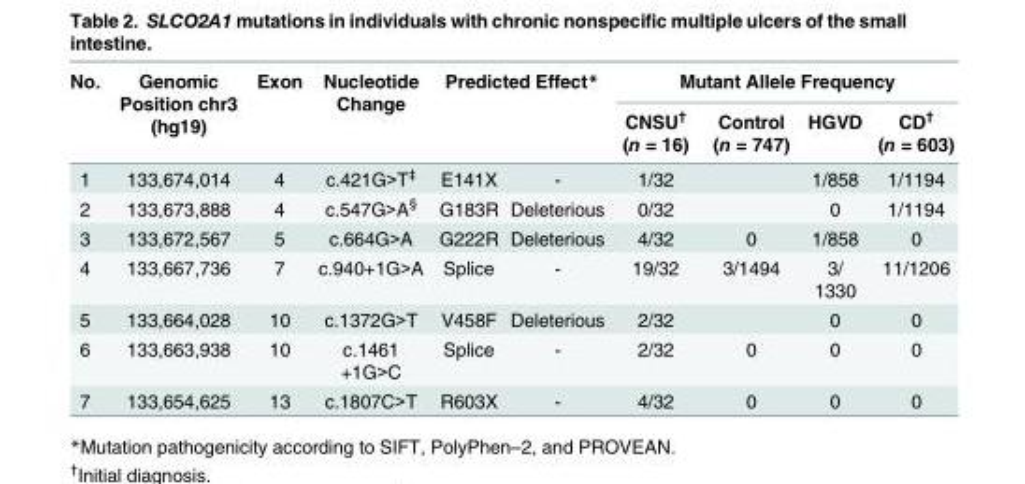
<table><thead><tr><td rowspan="3">No. 1</td><td rowspan="3">Genomic Position chr3 (hg19) 133,674,014</td><td rowspan="3">Exon 4</td><td rowspan="3">Nucleotide Change c.421G&gt;T<sup>‡</sup></td><td rowspan="2" colspan="2">Predicted Effect*</td><td colspan="4">Mutant Allele Frequency</td></tr><tr><td rowspan="2">CNSU<sup>†</sup> (n = 16) 1/32</td><td rowspan="2">Control (n = 747)</td><td rowspan="2">HGVD 1/858</td><td rowspan="2">CD<sup>†</sup> (n = 603) 1/1194</td></tr><tr><td>E141X</td><td>-</td></tr></thead><tbody><tr><td>2</td><td>133,673,888</td><td>4</td><td>c.547G&gt;A<sup>§</sup></td><td>G183R</td><td>Deleterious</td><td>0/32</td><td></td><td>0</td><td>1/1194</td></tr><tr><td>3</td><td>133,672,567</td><td>5</td><td>c.664G&gt;A</td><td>G222R</td><td>Deleterious</td><td>4/32</td><td>0</td><td>1/858</td><td>0</td></tr><tr><td>4</td><td>133,667,736</td><td>7</td><td>c.940+1G&gt;A</td><td>Splice</td><td>-</td><td>19/32</td><td>3/1494</td><td>3/ 1330</td><td>11/1206</td></tr><tr><td>5</td><td>133,664,028</td><td>10</td><td>c.1372G&gt;T</td><td>V458F</td><td>Deleterious</td><td>2/32</td><td></td><td>0</td><td>0</td></tr><tr><td>6</td><td>133,663,938</td><td>10</td><td>c.1461 +1G&gt;C</td><td>Splice</td><td>-</td><td>2/32</td><td>0</td><td>0</td><td>0</td></tr><tr><td>7</td><td>133,654,625</td><td>13</td><td>c.1807C&gt;T</td><td>R603X</td><td>-</td><td>4/32</td><td>0</td><td>0</td><td>0</td></tr></tbody></table>